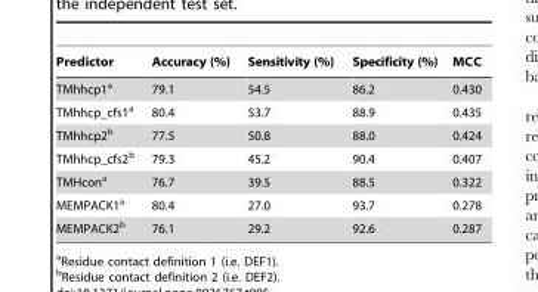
<table><thead><tr><td>Predictor</td><td>Accuracy (%)</td><td>Sensitivity (%)</td><td>Specificity (%)</td><td>MCC</td></tr></thead><tbody><tr><td>TMhhcp1<sup>a</sup></td><td>79.1</td><td>54.5</td><td>86.2</td><td>0.430</td></tr><tr><td>TMhhcp_cfs1<sup>a</sup></td><td>80.4</td><td>53.7</td><td>88.9</td><td>0.435</td></tr><tr><td>TMhhcp2<sup>b</sup></td><td>77.5</td><td>50.8</td><td>88.0</td><td>0.424</td></tr><tr><td>TMhhcp_cfs2<sup>b</sup></td><td>79.3</td><td>45.2</td><td>90.4</td><td>0.407</td></tr><tr><td>TMHcon<sup>a</sup></td><td>76.7</td><td>39.5</td><td>88.5</td><td>0.322</td></tr><tr><td>MEMPACK1<sup>a</sup></td><td>80.4</td><td>27.0</td><td>93.7</td><td>0.278</td></tr><tr><td>MEMPACK2<sup>b</sup></td><td>76.1</td><td>29.2</td><td>92.6</td><td>0.287</td></tr></tbody></table>